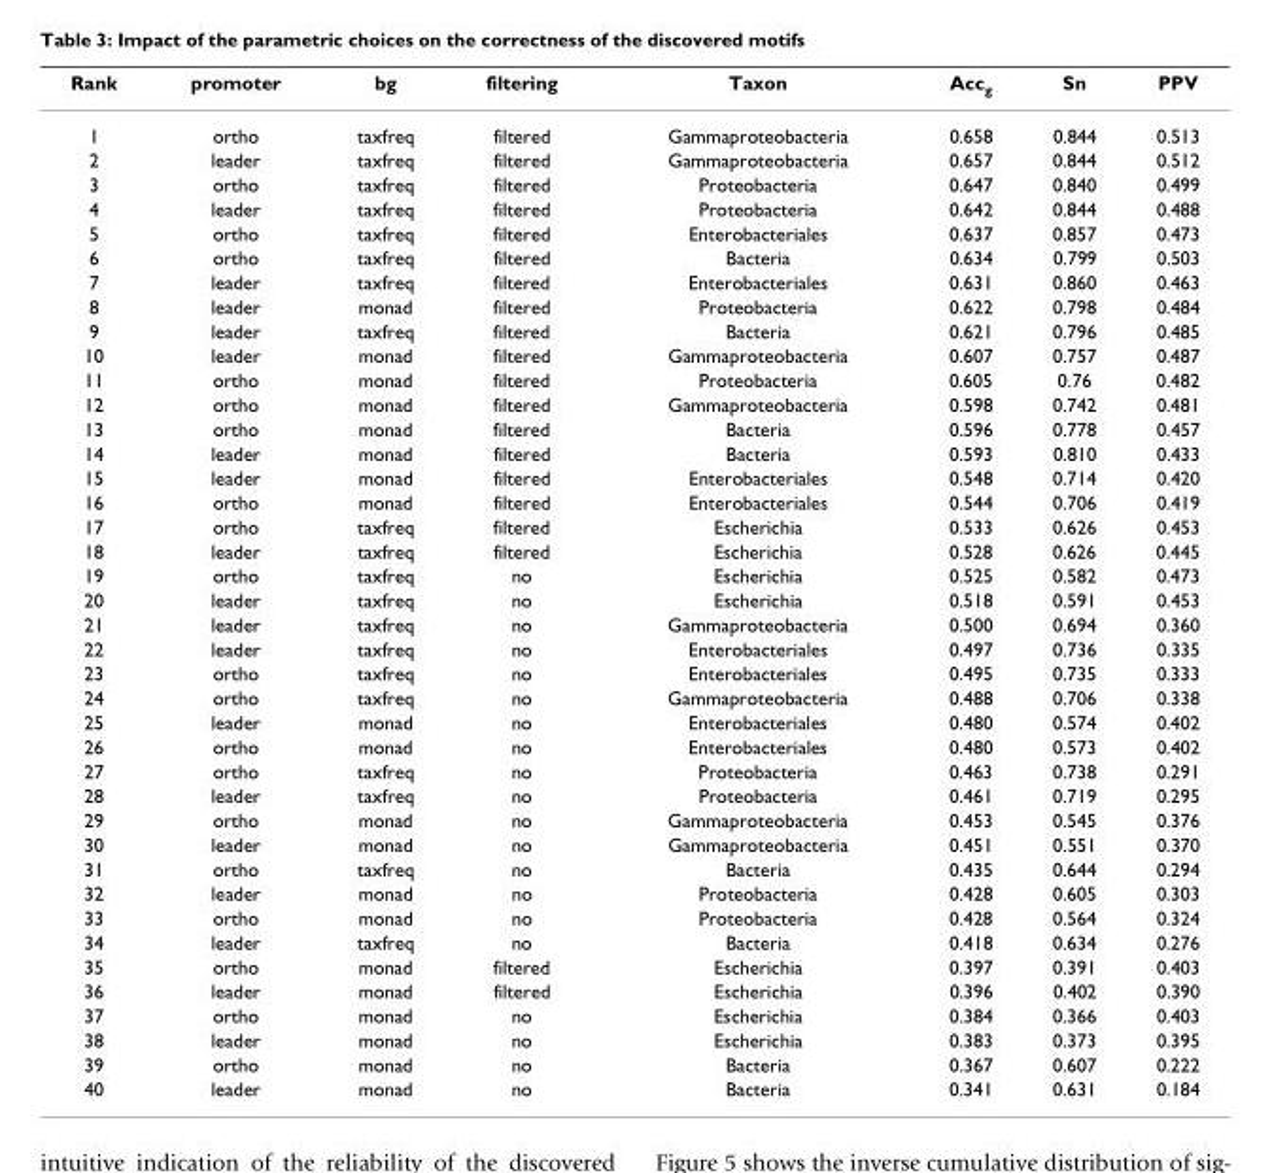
<table><thead><tr><td>Rank</td><td>promoter</td><td>bg</td><td>filtering</td><td>Taxon</td><td>Acc<sub>g</sub></td><td>Sn</td><td>PPV</td></tr></thead><tbody><tr><td>1</td><td>ortho</td><td>taxfreq</td><td>filtered</td><td>Gammaproteobacteria</td><td>0.658</td><td>0.844</td><td>0.513</td></tr><tr><td>2</td><td>leader</td><td>taxfreq</td><td>filtered</td><td>Gammaproteobacteria</td><td>0.657</td><td>0.844</td><td>0.512</td></tr><tr><td>3</td><td>ortho</td><td>taxfreq</td><td>filtered</td><td>Proteobacteria</td><td>0.647</td><td>0.840</td><td>0.499</td></tr><tr><td>4</td><td>leader</td><td>taxfreq</td><td>filtered</td><td>Proteobacteria</td><td>0.642</td><td>0.844</td><td>0.488</td></tr><tr><td>5</td><td>ortho</td><td>taxfreq</td><td>filtered</td><td>Enterobacteriales</td><td>0.637</td><td>0.857</td><td>0.473</td></tr><tr><td>6</td><td>ortho</td><td>taxfreq</td><td>filtered</td><td>Bacteria</td><td>0.634</td><td>0.799</td><td>0.503</td></tr><tr><td>7</td><td>leader</td><td>taxfreq</td><td>filtered</td><td>Enterobacteriales</td><td>0.631</td><td>0.860</td><td>0.463</td></tr><tr><td>8</td><td>leader</td><td>monad</td><td>filtered</td><td>Proteobacteria</td><td>0.622</td><td>0.798</td><td>0.484</td></tr><tr><td>9</td><td>leader</td><td>taxfreq</td><td>filtered</td><td>Bacteria</td><td>0.621</td><td>0.796</td><td>0.485</td></tr><tr><td>10</td><td>leader</td><td>monad</td><td>filtered</td><td>Gammaproteobacteria</td><td>0.607</td><td>0.757</td><td>0.487</td></tr><tr><td>11</td><td>ortho</td><td>monad</td><td>filtered</td><td>Proteobacteria</td><td>0.605</td><td>0.76</td><td>0.482</td></tr><tr><td>12</td><td>ortho</td><td>monad</td><td>filtered</td><td>Gammaproteobacteria</td><td>0.598</td><td>0.742</td><td>0.481</td></tr><tr><td>13</td><td>ortho</td><td>monad</td><td>filtered</td><td>Bacteria</td><td>0.596</td><td>0.778</td><td>0.457</td></tr><tr><td>14</td><td>leader</td><td>monad</td><td>filtered</td><td>Bacteria</td><td>0.593</td><td>0.810</td><td>0.433</td></tr><tr><td>15</td><td>leader</td><td>monad</td><td>filtered</td><td>Enterobacteriales</td><td>0.548</td><td>0.714</td><td>0.420</td></tr><tr><td>16</td><td>ortho</td><td>monad</td><td>filtered</td><td>Enterobacteriales</td><td>0.544</td><td>0.706</td><td>0.419</td></tr><tr><td>17</td><td>ortho</td><td>taxfreq</td><td>filtered</td><td>Escherichia</td><td>0.533</td><td>0.626</td><td>0.453</td></tr><tr><td>18</td><td>leader</td><td>taxfreq</td><td>filtered</td><td>Escherichia</td><td>0.528</td><td>0.626</td><td>0.445</td></tr><tr><td>19</td><td>ortho</td><td>taxfreq</td><td>no</td><td>Escherichia</td><td>0.525</td><td>0.582</td><td>0.473</td></tr><tr><td>20</td><td>leader</td><td>taxfreq</td><td>no</td><td>Escherichia</td><td>0.518</td><td>0.591</td><td>0.453</td></tr><tr><td>21</td><td>leader</td><td>taxfreq</td><td>no</td><td>Gammaproteobacteria</td><td>0.500</td><td>0.694</td><td>0.360</td></tr><tr><td>22</td><td>leader</td><td>taxfreq</td><td>no</td><td>Enterobacteriales</td><td>0.497</td><td>0.736</td><td>0.335</td></tr><tr><td>23</td><td>ortho</td><td>taxfreq</td><td>no</td><td>Enterobacteriales</td><td>0.495</td><td>0.735</td><td>0.333</td></tr><tr><td>24</td><td>ortho</td><td>taxfreq</td><td>no</td><td>Gammaproteobacteria</td><td>0.488</td><td>0.706</td><td>0.338</td></tr><tr><td>25</td><td>leader</td><td>monad</td><td>no</td><td>Enterobacteriales</td><td>0.480</td><td>0.574</td><td>0.402</td></tr><tr><td>26</td><td>ortho</td><td>monad</td><td>no</td><td>Enterobacteriales</td><td>0.480</td><td>0.573</td><td>0.402</td></tr><tr><td>27</td><td>ortho</td><td>taxfreq</td><td>no</td><td>Proteobacteria</td><td>0.463</td><td>0.738</td><td>0.291</td></tr><tr><td>28</td><td>leader</td><td>taxfreq</td><td>no</td><td>Proteobacteria</td><td>0.461</td><td>0.719</td><td>0.295</td></tr><tr><td>29</td><td>ortho</td><td>monad</td><td>no</td><td>Gammaproteobacteria</td><td>0.453</td><td>0.545</td><td>0.376</td></tr><tr><td>30</td><td>leader</td><td>monad</td><td>no</td><td>Gammaproteobacteria</td><td>0.451</td><td>0.551</td><td>0.370</td></tr><tr><td>31</td><td>ortho</td><td>taxfreq</td><td>no</td><td>Bacteria</td><td>0.435</td><td>0.644</td><td>0.294</td></tr><tr><td>32</td><td>leader</td><td>monad</td><td>no</td><td>Proteobacteria</td><td>0.428</td><td>0.605</td><td>0.303</td></tr><tr><td>33</td><td>ortho</td><td>monad</td><td>no</td><td>Proteobacteria</td><td>0.428</td><td>0.564</td><td>0.324</td></tr><tr><td>34</td><td>leader</td><td>taxfreq</td><td>no</td><td>Bacteria</td><td>0.418</td><td>0.634</td><td>0.276</td></tr><tr><td>35</td><td>ortho</td><td>monad</td><td>filtered</td><td>Escherichia</td><td>0.397</td><td>0.391</td><td>0.403</td></tr><tr><td>36</td><td>leader</td><td>monad</td><td>filtered</td><td>Escherichia</td><td>0.396</td><td>0.402</td><td>0.390</td></tr><tr><td>37</td><td>ortho</td><td>monad</td><td>no</td><td>Escherichia</td><td>0.384</td><td>0.366</td><td>0.403</td></tr><tr><td>38</td><td>leader</td><td>monad</td><td>no</td><td>Escherichia</td><td>0.383</td><td>0.373</td><td>0.395</td></tr><tr><td>39</td><td>ortho</td><td>monad</td><td>no</td><td>Bacteria</td><td>0.367</td><td>0.607</td><td>0.222</td></tr><tr><td>40</td><td>leader</td><td>monad</td><td>no</td><td>Bacteria</td><td>0.341</td><td>0.631</td><td>0.184</td></tr></tbody></table>